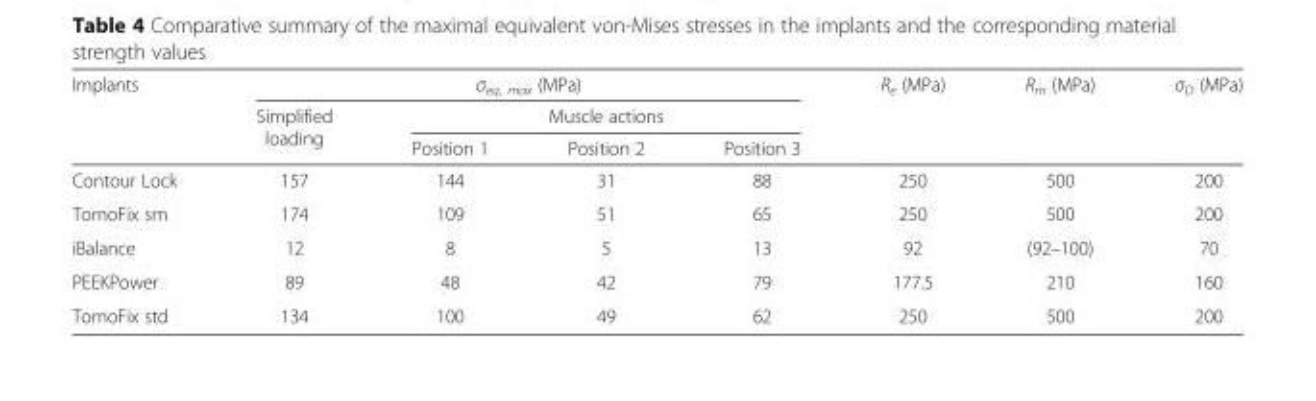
<table><thead><tr><td rowspan="3">Implants</td><td colspan="4">σ<sub>eq, max</sub> (MPa)</td><td rowspan="3">R<sub>e</sub> (MPa)</td><td rowspan="3">R<sub>m</sub> (MPa)</td><td rowspan="3">σ<sub>D</sub> (MPa)</td></tr><tr><td rowspan="2">Simplified loading</td><td colspan="3">Muscle actions</td></tr><tr><td>Position 1</td><td>Position 2</td><td>Position 3</td></tr></thead><tbody><tr><td>Contour Lock</td><td>157</td><td>144</td><td>31</td><td>88</td><td>250</td><td>500</td><td>200</td></tr><tr><td>TomoFix sm</td><td>174</td><td>109</td><td>51</td><td>65</td><td>250</td><td>500</td><td>200</td></tr><tr><td>iBalance</td><td>12</td><td>8</td><td>5</td><td>13</td><td>92</td><td>(92–100)</td><td>70</td></tr><tr><td>PEEKPower</td><td>89</td><td>48</td><td>42</td><td>79</td><td>177.5</td><td>210</td><td>160</td></tr><tr><td>TomoFix std</td><td>134</td><td>100</td><td>49</td><td>62</td><td>250</td><td>500</td><td>200</td></tr></tbody></table>